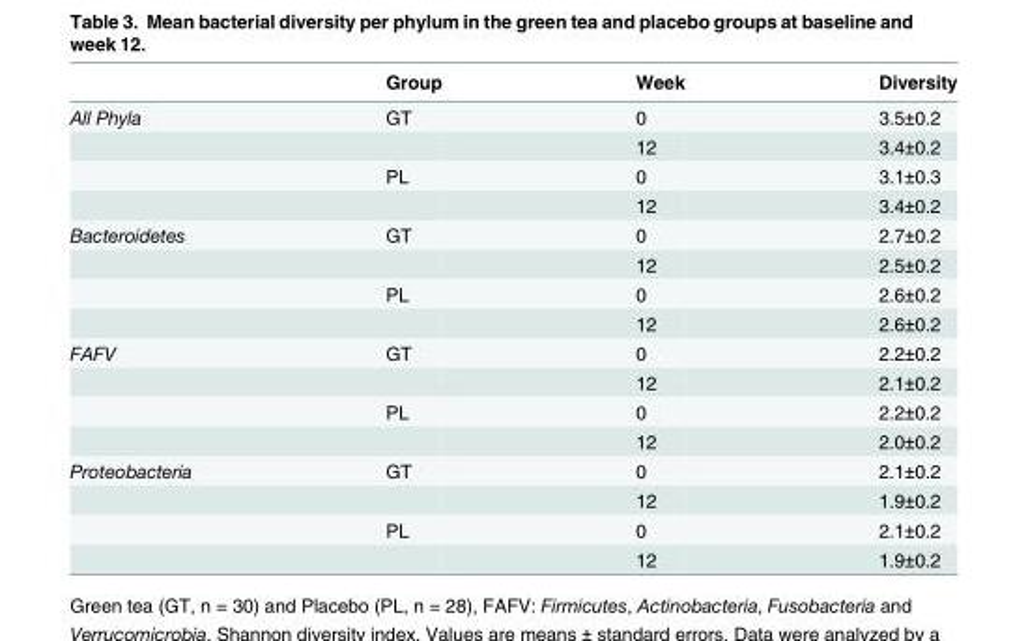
<table><thead><tr><td></td><td>Group</td><td>Week</td><td>Diversity</td></tr></thead><tbody><tr><td rowspan="4">All Phyla</td><td>GT</td><td>0</td><td>3.5±0.2</td></tr><tr><td></td><td>12</td><td>3.4±0.2</td></tr><tr><td>PL</td><td>0</td><td>3.1±0.3</td></tr><tr><td></td><td>12</td><td>3.4±0.2</td></tr><tr><td rowspan="4">Bacteroidetes</td><td>GT</td><td>0</td><td>2.7±0.2</td></tr><tr><td></td><td>12</td><td>2.5±0.2</td></tr><tr><td>PL</td><td>0</td><td>2.6±0.2</td></tr><tr><td></td><td>12</td><td>2.6±0.2</td></tr><tr><td rowspan="4">FAFV</td><td>GT</td><td>0</td><td>2.2±0.2</td></tr><tr><td></td><td>12</td><td>2.1±0.2</td></tr><tr><td>PL</td><td>0</td><td>2.2±0.2</td></tr><tr><td></td><td>12</td><td>2.0±0.2</td></tr><tr><td rowspan="4">Proteobacteria</td><td>GT</td><td>0</td><td>2.1±0.2</td></tr><tr><td></td><td>12</td><td>1.9±0.2</td></tr><tr><td>PL</td><td>0</td><td>2.1±0.2</td></tr><tr><td></td><td>12</td><td>1.9±0.2</td></tr></tbody></table>